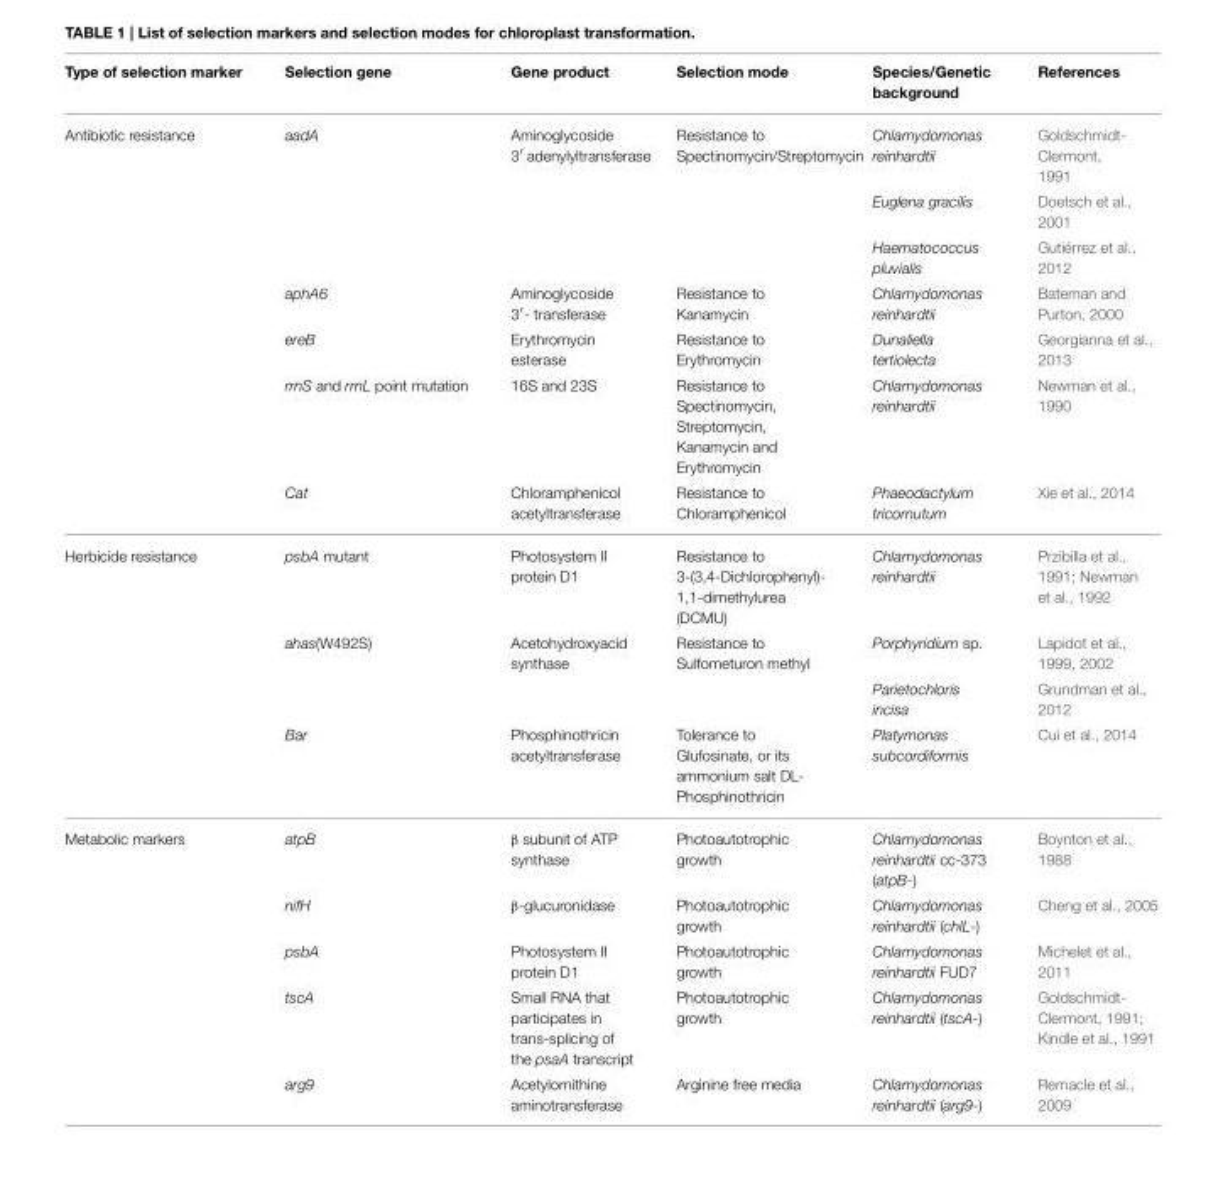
<table><thead><tr><td>Type of selection marker</td><td>Selection gene</td><td>Gene product</td><td>Selection mode</td><td>Species/Genetic background</td><td>References</td></tr></thead><tbody><tr><td rowspan="7">Antibiotic resistance</td><td>aadA</td><td>Aminoglycoside 3′ adenylyltransferase</td><td>Resistance to Spectinomycin/Streptomycin</td><td>Chlamydomonas reinhardtii</td><td>Goldschmidt- Clermont, 1991</td></tr><tr><td></td><td></td><td></td><td>Euglena gracilis</td><td>Doetsch et al., 2001</td></tr><tr><td></td><td></td><td></td><td>Haematococcus pluvialis</td><td>Gutiérrez et al., 2012</td></tr><tr><td>aphA6</td><td>Aminoglycoside 3′- transferase</td><td>Resistance to Kanamycin</td><td>Chlamydomonas reinhardtii</td><td>Bateman and Purton, 2000</td></tr><tr><td>ereB</td><td>Erythromycin esterase</td><td>Resistance to Erythromycin</td><td>Dunaliella tertiolecta</td><td>Georgianna et al., 2013</td></tr><tr><td>rrnS and rrnL point mutation</td><td>16S and 23S</td><td>Resistance to Spectinomycin, Streptomycin, Kanamycin and Erythromycin</td><td>Chlamydomonas reinhardtii</td><td>Newman et al., 1990</td></tr><tr><td>Cat</td><td>Chloramphenicol acetyltransferase</td><td>Resistance to Chloramphenicol</td><td>Phaeodactylum tricornutum</td><td>Xie et al., 2014</td></tr><tr><td rowspan="4">Herbicide resistance</td><td>psbA mutant</td><td>Photosystem II protein D1</td><td>Resistance to 3-(3,4-Dichlorophenyl)- 1,1-dimethylurea (DCMU)</td><td>Chlamydomonas reinhardtii</td><td>Przibilla et al., 1991; Newman et al., 1992</td></tr><tr><td>ahas(W492S)</td><td>Acetohydroxyacid synthase</td><td>Resistance to Sulfometuron methyl</td><td>Porphyridium sp.</td><td>Lapidot et al., 1999, 2002</td></tr><tr><td></td><td></td><td></td><td>Parietochloris incisa</td><td>Grundman et al., 2012</td></tr><tr><td>Bar</td><td>Phosphinothricin acetyltransferase</td><td>Tolerance to Glufosinate, or its ammonium salt DL- Phosphinothricin</td><td>Platymonas subcordiformis</td><td>Cui et al., 2014</td></tr><tr><td rowspan="5">Metabolic markers</td><td>atpB</td><td>β subunit of ATP synthase</td><td>Photoautotrophic growth</td><td>Chlamydomonas reinhardtii cc-373 (atpB-)</td><td>Boynton et al., 1988</td></tr><tr><td>nifH</td><td>β-glucuronidase</td><td>Photoautotrophic growth</td><td>Chlamydomonas reinhardtii (chlL-)</td><td>Cheng et al., 2005</td></tr><tr><td>psbA</td><td>Photosystem II protein D1</td><td>Photoautotrophic growth</td><td>Chlamydomonas reinhardtii FUD7</td><td>Michelet et al., 2011</td></tr><tr><td>tscA</td><td>Small RNA that participates in trans-splicing of the psaA transcript</td><td>Photoautotrophic growth</td><td>Chlamydomonas reinhardtii (tscA-)</td><td>Goldschmidt- Clermont, 1991; Kindle et al., 1991</td></tr><tr><td>arg9</td><td>Acetylornithine aminotransferase</td><td>Arginine free media</td><td>Chlamydomonas reinhardtii (arg9-)</td><td>Remacle et al., 2009</td></tr></tbody></table>